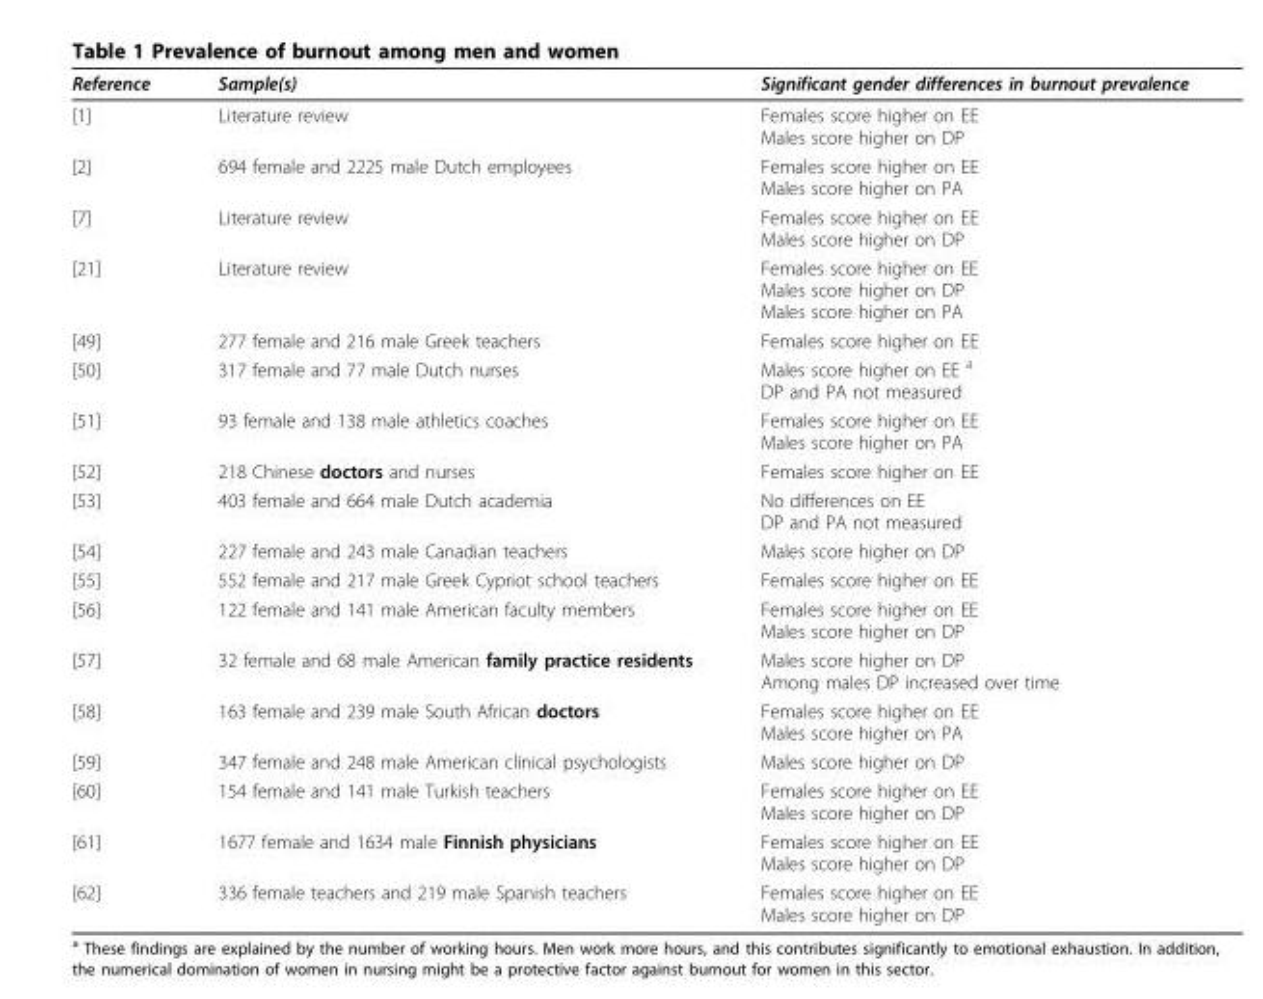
<table><thead><tr><td>Reference</td><td>Sample(s)</td><td>Significant gender differences in burnout prevalence</td></tr></thead><tbody><tr><td>[1]</td><td>Literature review</td><td>Females score higher on EE Males score higher on DP</td></tr><tr><td>[2]</td><td>694 female and 2225 male Dutch employees</td><td>Females score higher on EE Males score higher on PA</td></tr><tr><td>[7]</td><td>Literature review</td><td>Females score higher on EE Males score higher on DP</td></tr><tr><td>[21]</td><td>Literature review</td><td>Females score higher on EE Males score higher on DP Males score higher on PA</td></tr><tr><td>[49]</td><td>277 female and 216 male Greek teachers</td><td>Females score higher on EE</td></tr><tr><td>[50]</td><td>317 female and 77 male Dutch nurses</td><td>Males score higher on EE <sup>a</sup> DP and PA not measured</td></tr><tr><td>[51]</td><td>93 female and 138 male athletics coaches</td><td>Females score higher on EE Males score higher on PA</td></tr><tr><td>[52]</td><td>218 Chinese doctors and nurses</td><td>Females score higher on EE</td></tr><tr><td>[53]</td><td>403 female and 664 male Dutch academia</td><td>No differences on EE DP and PA not measured</td></tr><tr><td>[54]</td><td>227 female and 243 male Canadian teachers</td><td>Males score higher on DP</td></tr><tr><td>[55]</td><td>552 female and 217 male Greek Cypriot school teachers</td><td>Females score higher on EE</td></tr><tr><td>[56]</td><td>122 female and 141 male American faculty members</td><td>Females score higher on EE Males score higher on DP</td></tr><tr><td>[57]</td><td>32 female and 68 male American family practice residents</td><td>Males score higher on DP Among males DP increased over time</td></tr><tr><td>[58]</td><td>163 female and 239 male South African doctors</td><td>Females score higher on EE Males score higher on PA</td></tr><tr><td>[59]</td><td>347 female and 248 male American clinical psychologists</td><td>Males score higher on DP</td></tr><tr><td>[60]</td><td>154 female and 141 male Turkish teachers</td><td>Females score higher on EE Males score higher on DP</td></tr><tr><td>[61]</td><td>1677 female and 1634 male Finnish physicians</td><td>Females score higher on EE Males score higher on DP</td></tr><tr><td>[62]</td><td>336 female teachers and 219 male Spanish teachers</td><td>Females score higher on EE Males score higher on DP</td></tr></tbody></table>